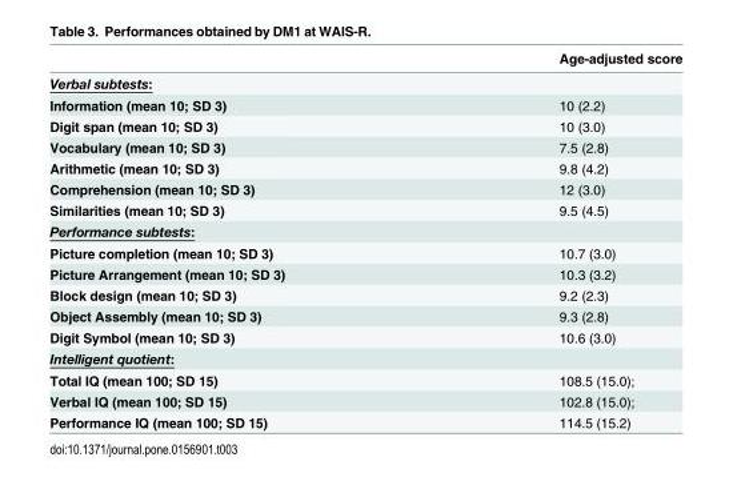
<table><thead><tr><td></td><td>Age-adjusted score</td></tr></thead><tbody><tr><td colspan="2">Verbal subtests:</td></tr><tr><td>Information (mean 10; SD 3)</td><td>10 (2.2)</td></tr><tr><td>Digit span (mean 10; SD 3)</td><td>10 (3.0)</td></tr><tr><td>Vocabulary (mean 10; SD 3)</td><td>7.5 (2.8)</td></tr><tr><td>Arithmetic (mean 10; SD 3)</td><td>9.8 (4.2)</td></tr><tr><td>Comprehension (mean 10; SD 3)</td><td>12 (3.0)</td></tr><tr><td>Similarities (mean 10; SD 3)</td><td>9.5 (4.5)</td></tr><tr><td colspan="2">Performance subtests:</td></tr><tr><td>Picture completion (mean 10; SD 3)</td><td>10.7 (3.0)</td></tr><tr><td>Picture Arrangement (mean 10; SD 3)</td><td>10.3 (3.2)</td></tr><tr><td>Block design (mean 10; SD 3)</td><td>9.2 (2.3)</td></tr><tr><td>Object Assembly (mean 10; SD 3)</td><td>9.3 (2.8)</td></tr><tr><td>Digit Symbol (mean 10; SD 3)</td><td>10.6 (3.0)</td></tr><tr><td colspan="2">Intelligent quotient:</td></tr><tr><td>Total IQ (mean 100; SD 15)</td><td>108.5 (15.0);</td></tr><tr><td>Verbal IQ (mean 100; SD 15)</td><td>102.8 (15.0);</td></tr><tr><td>Performance IQ (mean 100; SD 15)</td><td>114.5 (15.2)</td></tr></tbody></table>